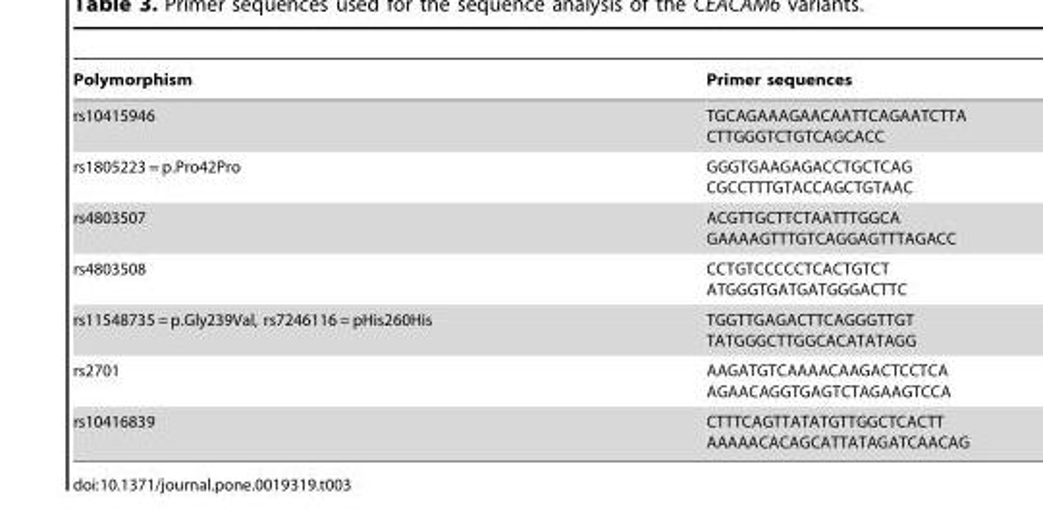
<table><thead><tr><td>Polymorphism</td><td>Primer sequences</td></tr></thead><tbody><tr><td>rs10415946</td><td>TGCAGAAAGAACAATTCAGAATCTTA CTTGGGTCTGTCAGCACC</td></tr><tr><td>rs1805223 = p.Pro42Pro</td><td>GGGTGAAGAGACCTGCTCAG CGCCTTTGTACCAGCTGTAAC</td></tr><tr><td>rs4803507</td><td>ACGTTGCTTCTAATTTGGCA GAAAAGTTTGTCAGGAGTTTAGACC</td></tr><tr><td>rs4803508</td><td>CCTGTCCCCCTCACTGTCT ATGGGTGATGATGGGACTTC</td></tr><tr><td>rs11548735 = p.Gly239Val, rs7246116 = pHis260His</td><td>TGGTTGAGACTTCAGGGTTGT TATGGGCTTGGCACATATAGG</td></tr><tr><td>rs2701</td><td>AAGATGTCAAAACAAGACTCCTCA AGAACAGGTGAGTCTAGAAGTCCA</td></tr><tr><td>rs10416839</td><td>CTTTCAGTTATATGTTGGCTCACTT AAAAACACAGCATTATAGATCAACAG</td></tr></tbody></table>